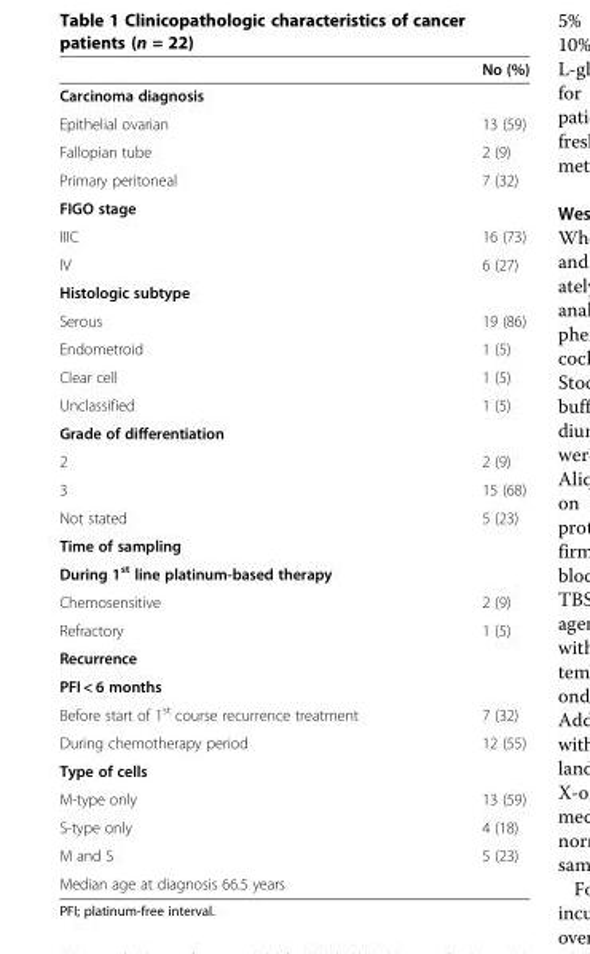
<table><thead><tr><td></td><td>No (%)</td></tr></thead><tbody><tr><td colspan="2">Carcinoma diagnosis</td></tr><tr><td>Epithelial ovarian</td><td>13 (59)</td></tr><tr><td>Fallopian tube</td><td>2 (9)</td></tr><tr><td>Primary peritoneal</td><td>7 (32)</td></tr><tr><td colspan="2">FIGO stage</td></tr><tr><td>IIIC</td><td>16 (73)</td></tr><tr><td>IV</td><td>6 (27)</td></tr><tr><td colspan="2">Histologic subtype</td></tr><tr><td>Serous</td><td>19 (86)</td></tr><tr><td>Endometroid</td><td>1 (5)</td></tr><tr><td>Clear cell</td><td>1 (5)</td></tr><tr><td>Unclassified</td><td>1 (5)</td></tr><tr><td colspan="2">Grade of differentiation</td></tr><tr><td>2</td><td>2 (9)</td></tr><tr><td>3</td><td>15 (68)</td></tr><tr><td>Not stated</td><td>5 (23)</td></tr><tr><td colspan="2">Time of sampling</td></tr><tr><td colspan="2">During 1<sup>st</sup> line platinum-based therapy</td></tr><tr><td>Chemosensitive</td><td>2 (9)</td></tr><tr><td>Refractory</td><td>1 (5)</td></tr><tr><td colspan="2">Recurrence</td></tr><tr><td colspan="2">PFI &lt; 6 months</td></tr><tr><td>Before start of 1<sup>st</sup> course recurrence treatment</td><td>7 (32)</td></tr><tr><td>During chemotherapy period</td><td>12 (55)</td></tr><tr><td colspan="2">Type of cells</td></tr><tr><td>M-type only</td><td>13 (59)</td></tr><tr><td>S-type only</td><td>4 (18)</td></tr><tr><td>M and S</td><td>5 (23)</td></tr><tr><td>Median age at diagnosis 66.5 years</td><td></td></tr></tbody></table>